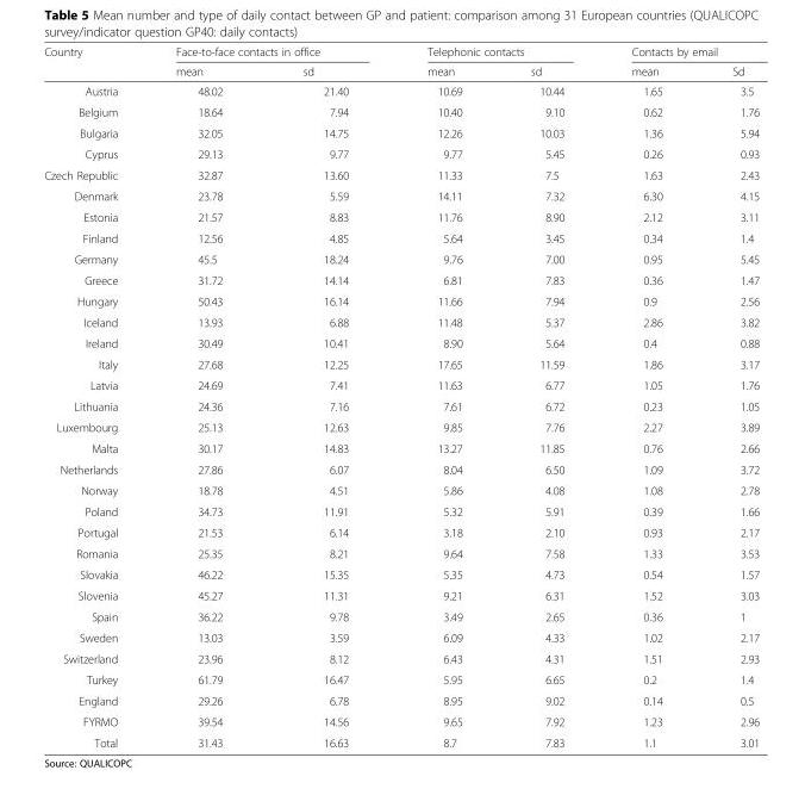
<table><thead><tr><td rowspan="2">Country</td><td colspan="2">Face-to-face contacts in office</td><td colspan="2">Telephonic contacts</td><td colspan="2">Contacts by email</td></tr><tr><td>mean</td><td>sd</td><td>mean</td><td>sd</td><td>mean</td><td>Sd</td></tr></thead><tbody><tr><td>Austria</td><td>48.02</td><td>21.40</td><td>10.69</td><td>10.44</td><td>1.65</td><td>3.5</td></tr><tr><td>Belgium</td><td>18.64</td><td>7.94</td><td>10.40</td><td>9.10</td><td>0.62</td><td>1.76</td></tr><tr><td>Bulgaria</td><td>32.05</td><td>14.75</td><td>12.26</td><td>10.03</td><td>1.36</td><td>5.94</td></tr><tr><td>Cyprus</td><td>29.13</td><td>9.77</td><td>9.77</td><td>5.45</td><td>0.26</td><td>0.93</td></tr><tr><td>Czech Republic</td><td>32.87</td><td>13.60</td><td>11.33</td><td>7.5</td><td>1.63</td><td>2.43</td></tr><tr><td>Denmark</td><td>23.78</td><td>5.59</td><td>14.11</td><td>7.32</td><td>6.30</td><td>4.15</td></tr><tr><td>Estonia</td><td>21.57</td><td>8.83</td><td>11.76</td><td>8.90</td><td>2.12</td><td>3.11</td></tr><tr><td>Finland</td><td>12.56</td><td>4.85</td><td>5.64</td><td>3.45</td><td>0.34</td><td>1.4</td></tr><tr><td>Germany</td><td>45.5</td><td>18.24</td><td>9.76</td><td>7.00</td><td>0.95</td><td>5.45</td></tr><tr><td>Greece</td><td>31.72</td><td>14.14</td><td>6.81</td><td>7.83</td><td>0.36</td><td>1.47</td></tr><tr><td>Hungary</td><td>50.43</td><td>16.14</td><td>11.66</td><td>7.94</td><td>0.9</td><td>2.56</td></tr><tr><td>Iceland</td><td>13.93</td><td>6.88</td><td>11.48</td><td>5.37</td><td>2.86</td><td>3.82</td></tr><tr><td>Ireland</td><td>30.49</td><td>10.41</td><td>8.90</td><td>5.64</td><td>0.4</td><td>0.88</td></tr><tr><td>Italy</td><td>27.68</td><td>12.25</td><td>17.65</td><td>11.59</td><td>1.86</td><td>3.17</td></tr><tr><td>Latvia</td><td>24.69</td><td>7.41</td><td>11.63</td><td>6.77</td><td>1.05</td><td>1.76</td></tr><tr><td>Lithuania</td><td>24.36</td><td>7.16</td><td>7.61</td><td>6.72</td><td>0.23</td><td>1.05</td></tr><tr><td>Luxembourg</td><td>25.13</td><td>12.63</td><td>9.85</td><td>7.76</td><td>2.27</td><td>3.89</td></tr><tr><td>Malta</td><td>30.17</td><td>14.83</td><td>13.27</td><td>11.85</td><td>0.76</td><td>2.66</td></tr><tr><td>Netherlands</td><td>27.86</td><td>6.07</td><td>8.04</td><td>6.50</td><td>1.09</td><td>3.72</td></tr><tr><td>Norway</td><td>18.78</td><td>4.51</td><td>5.86</td><td>4.08</td><td>1.08</td><td>2.78</td></tr><tr><td>Poland</td><td>34.73</td><td>11.91</td><td>5.32</td><td>5.91</td><td>0.39</td><td>1.66</td></tr><tr><td>Portugal</td><td>21.53</td><td>6.14</td><td>3.18</td><td>2.10</td><td>0.93</td><td>2.17</td></tr><tr><td>Romania</td><td>25.35</td><td>8.21</td><td>9.64</td><td>7.58</td><td>1.33</td><td>3.53</td></tr><tr><td>Slovakia</td><td>46.22</td><td>15.35</td><td>5.35</td><td>4.73</td><td>0.54</td><td>1.57</td></tr><tr><td>Slovenia</td><td>45.27</td><td>11.31</td><td>9.21</td><td>6.31</td><td>1.52</td><td>3.03</td></tr><tr><td>Spain</td><td>36.22</td><td>9.78</td><td>3.49</td><td>2.65</td><td>0.36</td><td>1</td></tr><tr><td>Sweden</td><td>13.03</td><td>3.59</td><td>6.09</td><td>4.33</td><td>1.02</td><td>2.17</td></tr><tr><td>Switzerland</td><td>23.96</td><td>8.12</td><td>6.43</td><td>4.31</td><td>1.51</td><td>2.93</td></tr><tr><td>Turkey</td><td>61.79</td><td>16.47</td><td>5.95</td><td>6.65</td><td>0.2</td><td>1.4</td></tr><tr><td>England</td><td>29.26</td><td>6.78</td><td>8.95</td><td>9.02</td><td>0.14</td><td>0.5</td></tr><tr><td>FYRMO</td><td>39.54</td><td>14.56</td><td>9.65</td><td>7.92</td><td>1.23</td><td>2.96</td></tr><tr><td>Total</td><td>31.43</td><td>16.63</td><td>8.7</td><td>7.83</td><td>1.1</td><td>3.01</td></tr></tbody></table>